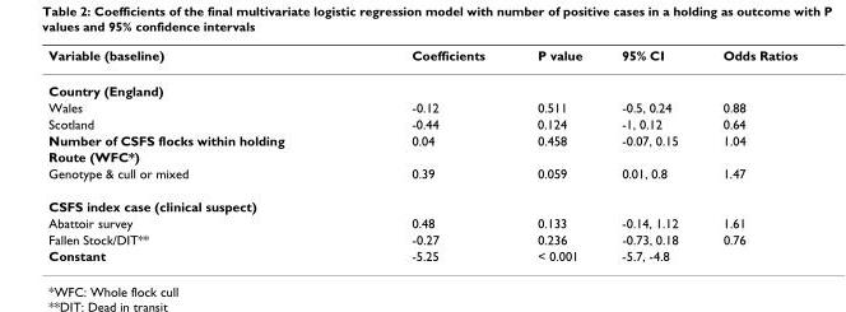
<table><thead><tr><td>Variable (baseline)</td><td>Coefficients</td><td>P value</td><td>95% CI</td><td>Odds Ratios</td></tr></thead><tbody><tr><td colspan="5">Country (England)</td></tr><tr><td>Wales</td><td>-0.12</td><td>0.511</td><td>-0.5, 0.24</td><td>0.88</td></tr><tr><td>Scotland</td><td>-0.44</td><td>0.124</td><td>-1, 0.12</td><td>0.64</td></tr><tr><td>Number of CSFS flocks within holding</td><td>0.04</td><td>0.458</td><td>-0.07, 0.15</td><td>1.04</td></tr><tr><td colspan="5">Route (WFC*)</td></tr><tr><td>Genotype &amp; cull or mixed</td><td>0.39</td><td>0.059</td><td>0.01, 0.8</td><td>1.47</td></tr><tr><td colspan="5">CSFS index case (clinical suspect)</td></tr><tr><td>Abattoir survey</td><td>0.48</td><td>0.133</td><td>-0.14, 1.12</td><td>1.61</td></tr><tr><td>Fallen Stock/DIT**</td><td>-0.27</td><td>0.236</td><td>-0.73, 0.18</td><td>0.76</td></tr><tr><td>Constant</td><td>-5.25</td><td>&lt; 0.001</td><td>-5.7, -4.8</td><td></td></tr></tbody></table>